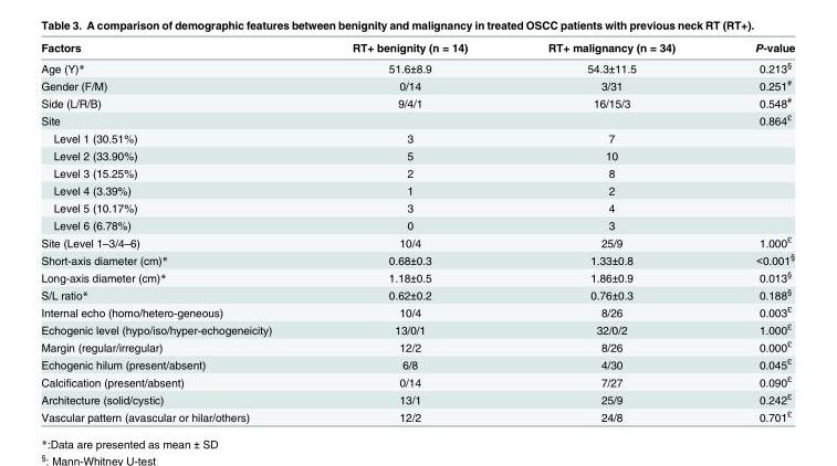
<table><thead><tr><td>Factors</td><td>RT+ benignity (n = 14)</td><td>RT+ malignancy (n = 34)</td><td>P-value</td></tr></thead><tbody><tr><td>Age (Y)*</td><td>51.6±8.9</td><td>54.3±11.5</td><td>0.213<sup>§</sup></td></tr><tr><td>Gender (F/M)</td><td>0/14</td><td>3/31</td><td>0.251<sup>#</sup></td></tr><tr><td>Side (L/R/B)</td><td>9/4/1</td><td>16/15/3</td><td>0.548<sup>#</sup></td></tr><tr><td>Site</td><td></td><td></td><td>0.864<sup>£</sup></td></tr><tr><td>Level 1 (30.51%)</td><td>3</td><td>7</td><td></td></tr><tr><td>Level 2 (33.90%)</td><td>5</td><td>10</td><td></td></tr><tr><td>Level 3 (15.25%)</td><td>2</td><td>8</td><td></td></tr><tr><td>Level 4 (3.39%)</td><td>1</td><td>2</td><td></td></tr><tr><td>Level 5 (10.17%)</td><td>3</td><td>4</td><td></td></tr><tr><td>Level 6 (6.78%)</td><td>0</td><td>3</td><td></td></tr><tr><td>Site (Level 1–3/4–6)</td><td>10/4</td><td>25/9</td><td>1.000<sup>£</sup></td></tr><tr><td>Short-axis diameter (cm)*</td><td>0.68±0.3</td><td>1.33±0.8</td><td>&lt;0.001<sup>§</sup></td></tr><tr><td>Long-axis diameter (cm)*</td><td>1.18±0.5</td><td>1.86±0.9</td><td>0.013<sup>§</sup></td></tr><tr><td>S/L ratio*</td><td>0.62±0.2</td><td>0.76±0.3</td><td>0.188<sup>§</sup></td></tr><tr><td>Internal echo (homo/hetero-geneous)</td><td>10/4</td><td>8/26</td><td>0.003<sup>£</sup></td></tr><tr><td>Echogenic level (hypo/iso/hyper-echogeneicity)</td><td>13/0/1</td><td>32/0/2</td><td>1.000<sup>£</sup></td></tr><tr><td>Margin (regular/irregular)</td><td>12/2</td><td>8/26</td><td>0.000<sup>£</sup></td></tr><tr><td>Echogenic hilum (present/absent)</td><td>6/8</td><td>4/30</td><td>0.045<sup>£</sup></td></tr><tr><td>Calcification (present/absent)</td><td>0/14</td><td>7/27</td><td>0.090<sup>£</sup></td></tr><tr><td>Architecture (solid/cystic)</td><td>13/1</td><td>25/9</td><td>0.242<sup>£</sup></td></tr><tr><td>Vascular pattern (avascular or hilar/others)</td><td>12/2</td><td>24/8</td><td>0.701<sup>£</sup></td></tr></tbody></table>